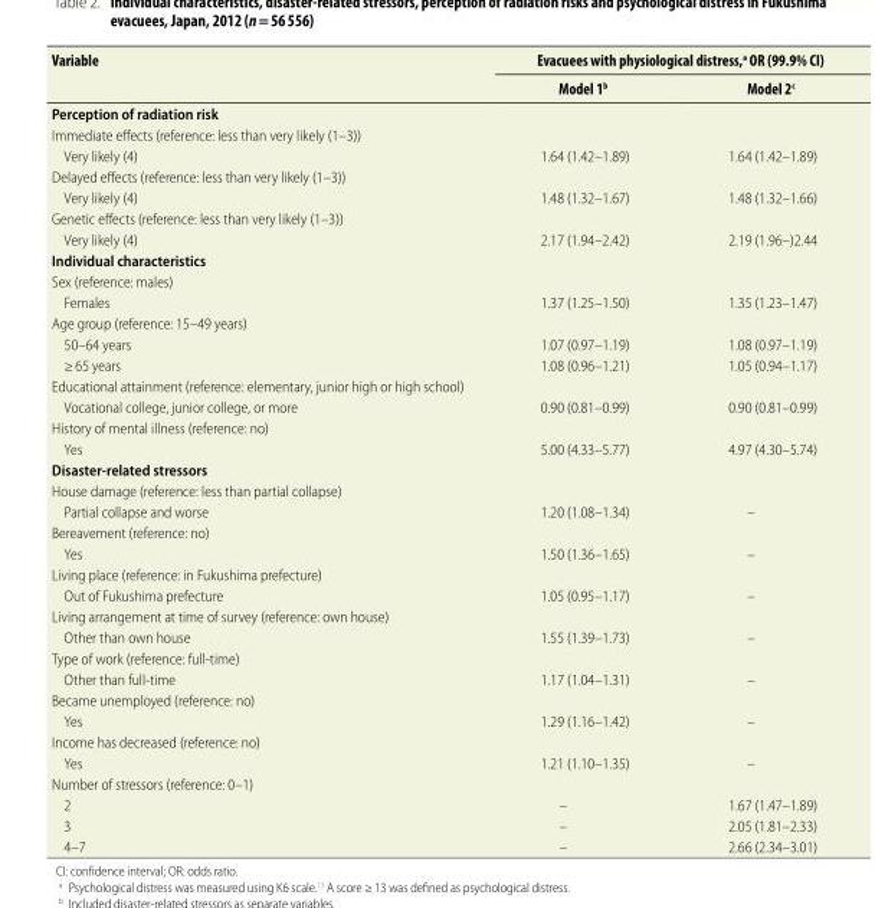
<table><thead><tr><td rowspan="2">Variable</td><td colspan="2">Evacuees with physiological distress,<sup>a</sup> OR (99.9% CI)</td></tr><tr><td>Model 1<sup>b</sup></td><td>Model 2<sup>c</sup></td></tr></thead><tbody><tr><td colspan="3">Perception of radiation risk</td></tr><tr><td colspan="3">Immediate effects (reference: less than very likely (1–3))</td></tr><tr><td>Very likely (4)</td><td>1.64 (1.42–1.89)</td><td>1.64 (1.42–1.89)</td></tr><tr><td colspan="3">Delayed effects (reference: less than very likely (1–3))</td></tr><tr><td>Very likely (4)</td><td>1.48 (1.32–1.67)</td><td>1.48 (1.32–1.66)</td></tr><tr><td colspan="3">Genetic effects (reference: less than very likely (1–3))</td></tr><tr><td>Very likely (4)</td><td>2.17 (1.94–2.42)</td><td>2.19 (1.96–)2.44</td></tr><tr><td colspan="3">Individual characteristics</td></tr><tr><td colspan="3">Sex (reference: males)</td></tr><tr><td>Females</td><td>1.37 (1.25–1.50)</td><td>1.35 (1.23–1.47)</td></tr><tr><td colspan="3">Age group (reference: 15–49 years)</td></tr><tr><td>50–64 years</td><td>1.07 (0.97–1.19)</td><td>1.08 (0.97–1.19)</td></tr><tr><td>≥ 65 years</td><td>1.08 (0.96–1.21)</td><td>1.05 (0.94–1.17)</td></tr><tr><td colspan="3">Educational attainment (reference: elementary, junior high or high school)</td></tr><tr><td>Vocational college, junior college, or more</td><td>0.90 (0.81–0.99)</td><td>0.90 (0.81–0.99)</td></tr><tr><td colspan="3">History of mental illness (reference: no)</td></tr><tr><td>Yes</td><td>5.00 (4.33–5.77)</td><td>4.97 (4.30–5.74)</td></tr><tr><td colspan="3">Disaster-related stressors</td></tr><tr><td colspan="3">House damage (reference: less than partial collapse)</td></tr><tr><td>Partial collapse and worse</td><td>1.20 (1.08–1.34)</td><td>–</td></tr><tr><td colspan="3">Bereavement (reference: no)</td></tr><tr><td>Yes</td><td>1.50 (1.36–1.65)</td><td>–</td></tr><tr><td colspan="3">Living place (reference: in Fukushima prefecture)</td></tr><tr><td>Out of Fukushima prefecture</td><td>1.05 (0.95–1.17)</td><td>–</td></tr><tr><td colspan="3">Living arrangement at time of survey (reference: own house)</td></tr><tr><td>Other than own house</td><td>1.55 (1.39–1.73)</td><td>–</td></tr><tr><td colspan="3">Type of work (reference: full-time)</td></tr><tr><td>Other than full-time</td><td>1.17 (1.04–1.31)</td><td>–</td></tr><tr><td colspan="3">Became unemployed (reference: no)</td></tr><tr><td>Yes</td><td>1.29 (1.16–1.42)</td><td>–</td></tr><tr><td colspan="3">Income has decreased (reference: no)</td></tr><tr><td>Yes</td><td>1.21 (1.10–1.35)</td><td>–</td></tr><tr><td colspan="3">Number of stressors (reference: 0–1)</td></tr><tr><td>2</td><td>–</td><td>1.67 (1.47–1.89)</td></tr><tr><td>3</td><td>–</td><td>2.05 (1.81–2.33)</td></tr><tr><td>4–7</td><td>–</td><td>2.66 (2.34–3.01)</td></tr></tbody></table>